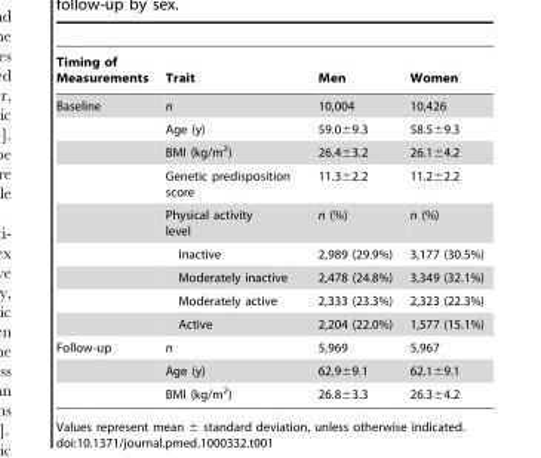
<table><thead><tr><td>Timing of Measurements</td><td>Trait</td><td>Men</td><td>Women</td></tr></thead><tbody><tr><td rowspan="9">Baseline</td><td>n</td><td>10,004</td><td>10,426</td></tr><tr><td>Age (y)</td><td>59.0±9.3</td><td>58.5±9.3</td></tr><tr><td>BMI (kg/m<sup>2</sup>)</td><td>26.4±3.2</td><td>26.1±4.2</td></tr><tr><td>Genetic predisposition score</td><td>11.3±2.2</td><td>11.2±2.2</td></tr><tr><td>Physical activity level</td><td>n (%)</td><td>n (%)</td></tr><tr><td>Inactive</td><td>2,989 (29.9%)</td><td>3,177 (30.5%)</td></tr><tr><td>Moderately inactive</td><td>2,478 (24.8%)</td><td>3,349 (32.1%)</td></tr><tr><td>Moderately active</td><td>2,333 (23.3%)</td><td>2,323 (22.3%)</td></tr><tr><td>Active</td><td>2,204 (22.0%)</td><td>1,577 (15.1%)</td></tr><tr><td rowspan="3">Follow-up</td><td>n</td><td>5,969</td><td>5,967</td></tr><tr><td>Age (y)</td><td>62.9±9.1</td><td>62.1±9.1</td></tr><tr><td>BMI (kg/m<sup>2</sup>)</td><td>26.8±3.3</td><td>26.3±4.2</td></tr></tbody></table>